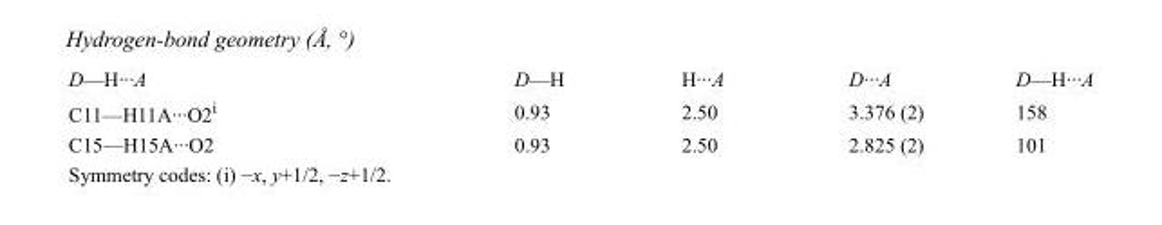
<table><tbody><tr><td>D—H···A</td><td>D—H</td><td>H···A</td><td>D···A</td><td>D—H···A</td></tr><tr><td>C11—H11A···O2<sup>i</sup></td><td>0.93</td><td>2.50</td><td>3.376 (2)</td><td>158</td></tr><tr><td>C15—H15A···O2</td><td>0.93</td><td>2.50</td><td>2.825 (2)</td><td>101</td></tr></tbody></table>